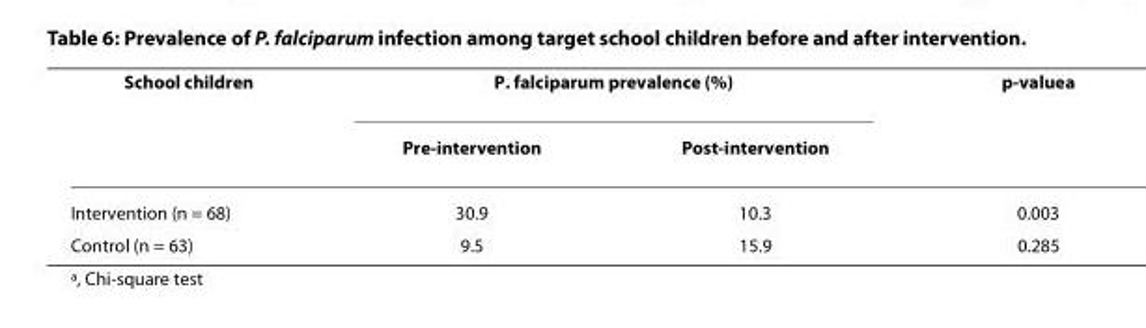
<table><thead><tr><td rowspan="2">School children</td><td colspan="2">P. falciparum prevalence (%)</td><td rowspan="2">p-value<sup>a</sup></td></tr><tr><td>Pre-intervention</td><td>Post-intervention</td></tr></thead><tbody><tr><td>Intervention (n = 68)</td><td>30.9</td><td>10.3</td><td>0.003</td></tr><tr><td>Control (n = 63)</td><td>9.5</td><td>15.9</td><td>0.285</td></tr></tbody></table>